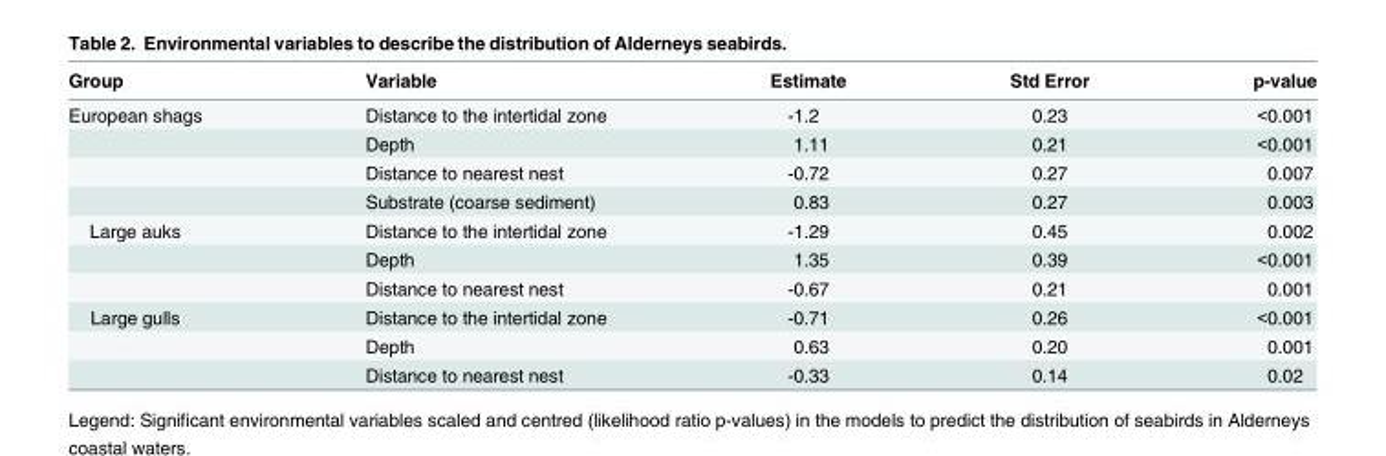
<table><thead><tr><td>Group</td><td>Variable</td><td>Estimate</td><td>Std Error</td><td>p-value</td></tr></thead><tbody><tr><td rowspan="4">European shags</td><td>Distance to the intertidal zone</td><td>-1.2</td><td>0.23</td><td>&lt;0.001</td></tr><tr><td>Depth</td><td>1.11</td><td>0.21</td><td>&lt;0.001</td></tr><tr><td>Distance to nearest nest</td><td>-0.72</td><td>0.27</td><td>0.007</td></tr><tr><td>Substrate (coarse sediment)</td><td>0.83</td><td>0.27</td><td>0.003</td></tr><tr><td rowspan="3">Large auks</td><td>Distance to the intertidal zone</td><td>-1.29</td><td>0.45</td><td>0.002</td></tr><tr><td>Depth</td><td>1.35</td><td>0.39</td><td>&lt;0.001</td></tr><tr><td>Distance to nearest nest</td><td>-0.67</td><td>0.21</td><td>0.001</td></tr><tr><td rowspan="3">Large gulls</td><td>Distance to the intertidal zone</td><td>-0.71</td><td>0.26</td><td>&lt;0.001</td></tr><tr><td>Depth</td><td>0.63</td><td>0.20</td><td>0.001</td></tr><tr><td>Distance to nearest nest</td><td>-0.33</td><td>0.14</td><td>0.02</td></tr></tbody></table>